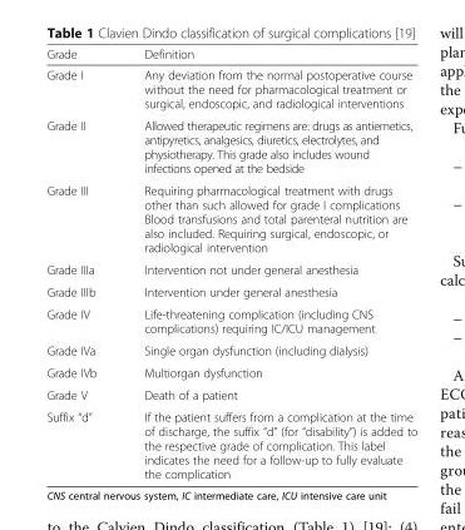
<table><thead><tr><td>Grade</td><td>Definition</td></tr></thead><tbody><tr><td>Grade I</td><td>Any deviation from the normal postoperative course without the need for pharmacological treatment or surgical, endoscopic, and radiological interventions</td></tr><tr><td>Grade II</td><td>Allowed therapeutic regimens are: drugs as antiemetics, antipyretics, analgesics, diuretics, electrolytes, and physiotherapy. This grade also includes wound infections opened at the bedside</td></tr><tr><td>Grade III</td><td>Requiring pharmacological treatment with drugs other than such allowed for grade I complications Blood transfusions and total parenteral nutrition are also included. Requiring surgical, endoscopic, or radiological intervention</td></tr><tr><td>Grade IIIa</td><td>Intervention not under general anesthesia</td></tr><tr><td>Grade IIIb</td><td>Intervention under general anesthesia</td></tr><tr><td>Grade IV</td><td>Life-threatening complication (including CNS complications) requiring IC/ICU management</td></tr><tr><td>Grade IVa</td><td>Single organ dysfunction (including dialysis)</td></tr><tr><td>Grade IVb</td><td>Multiorgan dysfunction</td></tr><tr><td>Grade V</td><td>Death of a patient</td></tr><tr><td>Suffix “d”</td><td>If the patient suffers from a complication at the time of discharge, the suffix “d” (for “disability”) is added to the respective grade of complication. This label indicates the need for a follow-up to fully evaluate the complication</td></tr></tbody></table>